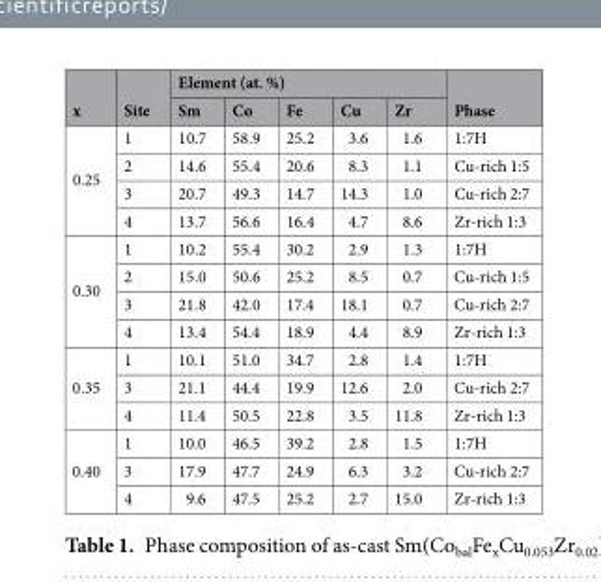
<table><thead><tr><td rowspan="2">x</td><td rowspan="2">Site</td><td colspan="5">Element (at. %)</td><td rowspan="2">Phase</td></tr><tr><td>Sm</td><td>Co</td><td>Fe</td><td>Cu</td><td>Zr</td></tr></thead><tbody><tr><td rowspan="4">0.25</td><td>1</td><td>10.7</td><td>58.9</td><td>25.2</td><td>3.6</td><td>1.6</td><td>1:7H</td></tr><tr><td>2</td><td>14.6</td><td>55.4</td><td>20.6</td><td>8.3</td><td>1.1</td><td>Cu-rich 1:5</td></tr><tr><td>3</td><td>20.7</td><td>49.3</td><td>14.7</td><td>14.3</td><td>1.0</td><td>Cu-rich 2:7</td></tr><tr><td>4</td><td>13.7</td><td>56.6</td><td>16.4</td><td>4.7</td><td>8.6</td><td>Zr-rich 1:3</td></tr><tr><td rowspan="4">0.30</td><td>1</td><td>10.2</td><td>55.4</td><td>30.2</td><td>2.9</td><td>1.3</td><td>1:7H</td></tr><tr><td>2</td><td>15.0</td><td>50.6</td><td>25.2</td><td>8.5</td><td>0.7</td><td>Cu-rich 1:5</td></tr><tr><td>3</td><td>21.8</td><td>42.0</td><td>17.4</td><td>18.1</td><td>0.7</td><td>Cu-rich 2:7</td></tr><tr><td>4</td><td>13.4</td><td>54.4</td><td>18.9</td><td>4.4</td><td>8.9</td><td>Zr-rich 1:3</td></tr><tr><td rowspan="3">0.35</td><td>1</td><td>10.1</td><td>51.0</td><td>34.7</td><td>2.8</td><td>1.4</td><td>1:7H</td></tr><tr><td>3</td><td>21.1</td><td>44.4</td><td>19.9</td><td>12.6</td><td>2.0</td><td>Cu-rich 2:7</td></tr><tr><td>4</td><td>11.4</td><td>50.5</td><td>22.8</td><td>3.5</td><td>11.8</td><td>Zr-rich 1:3</td></tr><tr><td rowspan="3">0.40</td><td>1</td><td>10.0</td><td>46.5</td><td>39.2</td><td>2.8</td><td>1.5</td><td>1:7H</td></tr><tr><td>3</td><td>17.9</td><td>47.7</td><td>24.9</td><td>6.3</td><td>3.2</td><td>Cu-rich 2:7</td></tr><tr><td>4</td><td>9.6</td><td>47.5</td><td>25.2</td><td>2.7</td><td>15.0</td><td>Zr-rich 1:3</td></tr></tbody></table>